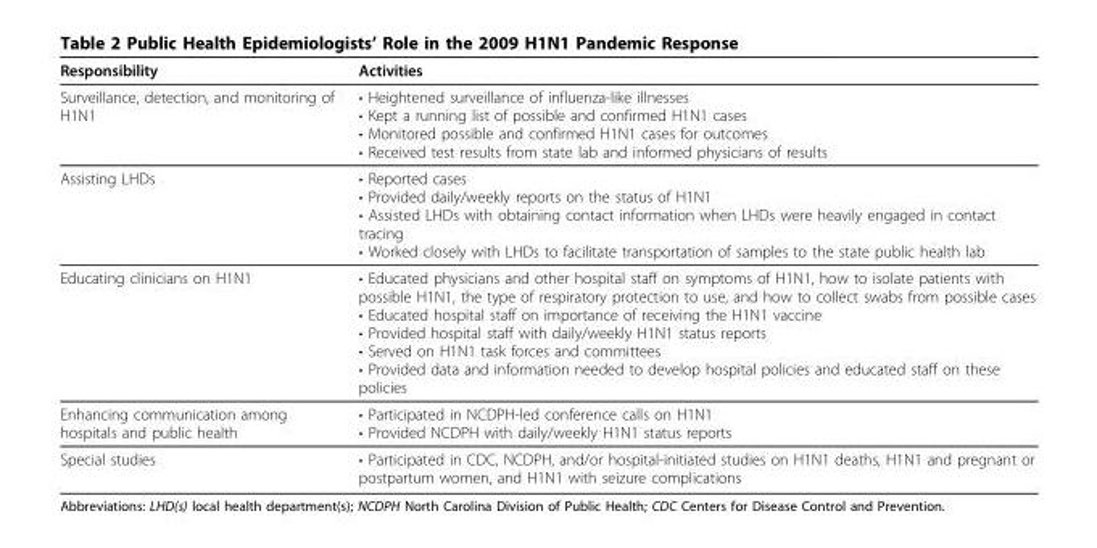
<table><thead><tr><td>Responsibility</td><td>Activities</td></tr></thead><tbody><tr><td>Surveillance, detection, and monitoring of H1N1</td><td>• Heightened surveillance of influenza-like illnesses • Kept a running list of possible and confirmed H1N1 cases • Monitored possible and confirmed H1N1 cases for outcomes • Received test results from state lab and informed physicians of results</td></tr><tr><td>Assisting LHDs</td><td>• Reported cases • Provided daily/weekly reports on the status of H1N1 • Assisted LHDs with obtaining contact information when LHDs were heavily engaged in contact tracing • Worked closely with LHDs to facilitate transportation of samples to the state public health lab</td></tr><tr><td>Educating clinicians on H1N1</td><td>• Educated physicians and other hospital staff on symptoms of H1N1, how to isolate patients with possible H1N1, the type of respiratory protection to use, and how to collect swabs from possible cases • Educated hospital staff on importance of receiving the H1N1 vaccine • Provided hospital staff with daily/weekly H1N1 status reports • Served on H1N1 task forces and committees • Provided data and information needed to develop hospital policies and educated staff on these policies</td></tr><tr><td>Enhancing communication among hospitals and public health</td><td>• Participated in NCDPH-led conference calls on H1N1 • Provided NCDPH with daily/weekly H1N1 status reports</td></tr><tr><td>Special studies</td><td>• Participated in CDC, NCDPH, and/or hospital-initiated studies on H1N1 deaths, H1N1 and pregnant or postpartum women, and H1N1 with seizure complications</td></tr></tbody></table>